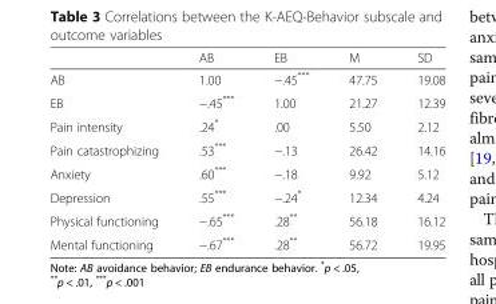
<table><thead><tr><td></td><td>AB</td><td>EB</td><td>M</td><td>SD</td></tr></thead><tbody><tr><td>AB</td><td>1.00</td><td>−.45***</td><td>47.75</td><td>19.08</td></tr><tr><td>EB</td><td>−.45***</td><td>1.00</td><td>21.27</td><td>12.39</td></tr><tr><td>Pain intensity</td><td>.24*</td><td>.00</td><td>5.50</td><td>2.12</td></tr><tr><td>Pain catastrophizing</td><td>.53***</td><td>−.13</td><td>26.42</td><td>14.16</td></tr><tr><td>Anxiety</td><td>.60***</td><td>−.18</td><td>9.92</td><td>5.12</td></tr><tr><td>Depression</td><td>.55***</td><td>−.24*</td><td>12.34</td><td>4.24</td></tr><tr><td>Physical functioning</td><td>−.65***</td><td>.28**</td><td>56.18</td><td>16.12</td></tr><tr><td>Mental functioning</td><td>−.67***</td><td>.28**</td><td>56.72</td><td>19.95</td></tr></tbody></table>